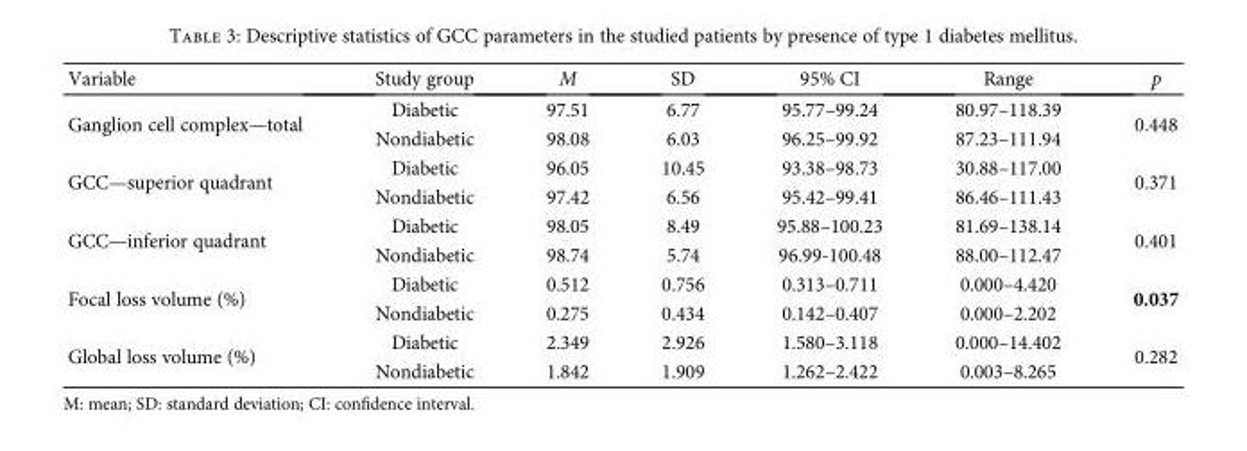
<table><thead><tr><td>Variable</td><td>Study group</td><td>M</td><td>SD</td><td>95% CI</td><td>Range</td><td>p</td></tr></thead><tbody><tr><td rowspan="2">Ganglion cell complex—total</td><td>Diabetic</td><td>97.51</td><td>6.77</td><td>95.77–99.24</td><td>80.97–118.39</td><td rowspan="2">0.448</td></tr><tr><td>Nondiabetic</td><td>98.08</td><td>6.03</td><td>96.25–99.92</td><td>87.23–111.94</td></tr><tr><td rowspan="2">GCC—superior quadrant</td><td>Diabetic</td><td>96.05</td><td>10.45</td><td>93.38–98.73</td><td>30.88–117.00</td><td rowspan="2">0.371</td></tr><tr><td>Nondiabetic</td><td>97.42</td><td>6.56</td><td>95.42–99.41</td><td>86.46–111.43</td></tr><tr><td rowspan="2">GCC—inferior quadrant</td><td>Diabetic</td><td>98.05</td><td>8.49</td><td>95.88–100.23</td><td>81.69–138.14</td><td rowspan="2">0.401</td></tr><tr><td>Nondiabetic</td><td>98.74</td><td>5.74</td><td>96.99-100.48</td><td>88.00–112.47</td></tr><tr><td rowspan="2">Focal loss volume (%)</td><td>Diabetic</td><td>0.512</td><td>0.756</td><td>0.313–0.711</td><td>0.000–4.420</td><td rowspan="2">0.037</td></tr><tr><td>Nondiabetic</td><td>0.275</td><td>0.434</td><td>0.142–0.407</td><td>0.000–2.202</td></tr><tr><td rowspan="2">Global loss volume (%)</td><td>Diabetic</td><td>2.349</td><td>2.926</td><td>1.580–3.118</td><td>0.000–14.402</td><td rowspan="2">0.282</td></tr><tr><td>Nondiabetic</td><td>1.842</td><td>1.909</td><td>1.262–2.422</td><td>0.003–8.265</td></tr></tbody></table>